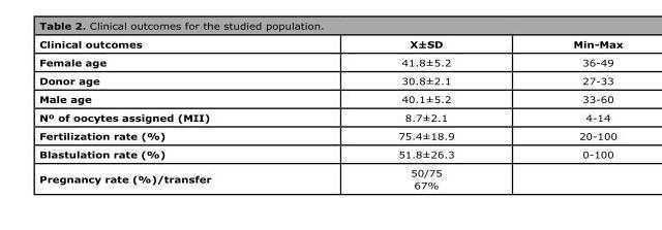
<table><thead><tr><td>Clinical outcomes</td><td>X±SD</td><td>Min-Max</td></tr></thead><tbody><tr><td>Female age</td><td>41.8±5.2</td><td>36-49</td></tr><tr><td>Donor age</td><td>30.8±2.1</td><td>27-33</td></tr><tr><td>Male age</td><td>40.1±5.2</td><td>33-60</td></tr><tr><td>Nº of oocytes assigned (MII)</td><td>8.7±2.1</td><td>4-14</td></tr><tr><td>Fertilization rate (%)</td><td>75.4±18.9</td><td>20-100</td></tr><tr><td>Blastulation rate (%)</td><td>51.8±26.3</td><td>0-100</td></tr><tr><td>Pregnancy rate (%)/transfer</td><td>50/75 67%</td><td></td></tr></tbody></table>